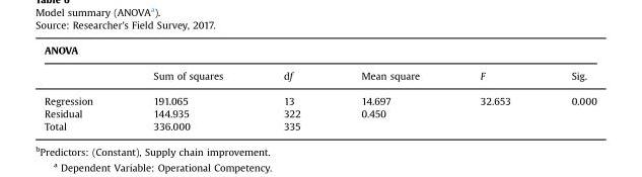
<table><thead><tr><td colspan="6">ANOVA</td></tr><tr><td></td><td>Sum of squares</td><td>df</td><td>Mean square</td><td>F</td><td>Sig.</td></tr></thead><tbody><tr><td>Regression</td><td>191.065</td><td>13</td><td>14.697</td><td>32.653</td><td>0.000</td></tr><tr><td>Residual</td><td>144.935</td><td>322</td><td>0.450</td><td></td><td></td></tr><tr><td>Total</td><td>336.000</td><td>335</td><td></td><td></td><td></td></tr></tbody></table>